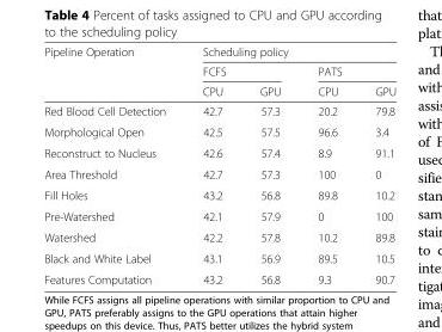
<table><thead><tr><td rowspan="3">Pipeline Operation</td><td colspan="4">Scheduling policy</td></tr><tr><td colspan="2">FCFS</td><td colspan="2">PATS</td></tr><tr><td>CPU</td><td>GPU</td><td>CPU</td><td>GPU</td></tr></thead><tbody><tr><td>Red Blood Cell Detection</td><td>42.7</td><td>57.3</td><td>20.2</td><td>79.8</td></tr><tr><td>Morphological Open</td><td>42.5</td><td>57.5</td><td>96.6</td><td>3.4</td></tr><tr><td>Reconstruct to Nucleus</td><td>42.6</td><td>57.4</td><td>8.9</td><td>91.1</td></tr><tr><td>Area Threshold</td><td>42.7</td><td>57.3</td><td>100</td><td>0</td></tr><tr><td>Fill Holes</td><td>43.2</td><td>56.8</td><td>89.8</td><td>10.2</td></tr><tr><td>Pre-Watershed</td><td>42.1</td><td>57.9</td><td>0</td><td>100</td></tr><tr><td>Watershed</td><td>42.2</td><td>57.8</td><td>10.2</td><td>89.8</td></tr><tr><td>Black and White Label</td><td>43.1</td><td>56.9</td><td>89.5</td><td>10.5</td></tr><tr><td>Features Computation</td><td>43.2</td><td>56.8</td><td>9.3</td><td>90.7</td></tr></tbody></table>